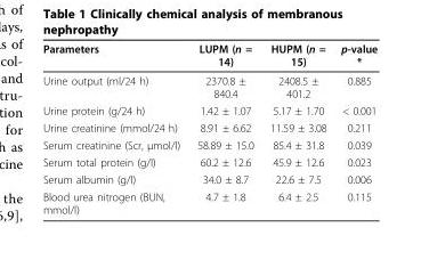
<table><thead><tr><td>Parameters</td><td>LUPM (n = 14)</td><td>HUPM (n = 15)</td><td>p-value *</td></tr></thead><tbody><tr><td>Urine output (ml/24 h)</td><td>2370.8 ± 840.4</td><td>2408.5 ± 401.2</td><td>0.885</td></tr><tr><td>Urine protein (g/24 h)</td><td>1.42 ± 1.07</td><td>5.17 ± 1.70</td><td>&lt; 0.001</td></tr><tr><td>Urine creatinine (mmol/24 h)</td><td>8.91 ± 6.62</td><td>11.59 ± 3.08</td><td>0.211</td></tr><tr><td>Serum creatinine (Scr, μmol/l)</td><td>58.89 ± 15.0</td><td>85.4 ± 31.8</td><td>0.039</td></tr><tr><td>Serum total protein (g/l)</td><td>60.2 ± 12.6</td><td>45.9 ± 12.6</td><td>0.023</td></tr><tr><td>Serum albumin (g/l)</td><td>34.0 ± 8.7</td><td>22.6 ± 7.5</td><td>0.006</td></tr><tr><td>Blood urea nitrogen (BUN, mmol/l)</td><td>4.7 ± 1.8</td><td>6.4 ± 2.5</td><td>0.115</td></tr></tbody></table>